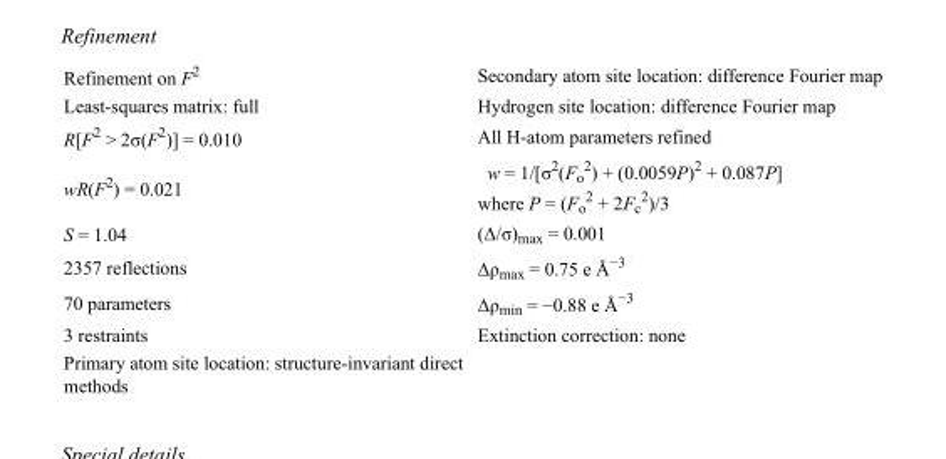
<table><tbody><tr><td>Refinement on F<sup>2</sup></td><td>Secondary atom site location: difference Fourier map</td></tr><tr><td>Least-squares matrix: full</td><td>Hydrogen site location: difference Fourier map</td></tr><tr><td>R[F<sup>2</sup> &gt; 2σ(F<sup>2</sup>)] = 0.010</td><td>All H-atom parameters refined</td></tr><tr><td>wR(F<sup>2</sup>) = 0.021</td><td>w = 1/[σ<sup>2</sup>(F<sub>o</sub> <sup>2</sup>) + (0.0059P)<sup>2</sup> + 0.087P] where P = (F<sub>o</sub> <sup>2</sup> + 2F<sub>c</sub> <sup>2</sup>)/3</td></tr><tr><td>S = 1.04</td><td>(Δ/σ)<sub>max</sub> = 0.001</td></tr><tr><td>2357 reflections</td><td>Δρ<sub>max</sub> = 0.75 e Å<sup>−3</sup></td></tr><tr><td>70 parameters</td><td>Δρ<sub>min</sub> = −0.88 e Å<sup>−3</sup></td></tr><tr><td>3 restraints</td><td>Extinction correction: none</td></tr><tr><td>Primary atom site location: structure-invariant direct methods</td><td></td></tr></tbody></table>